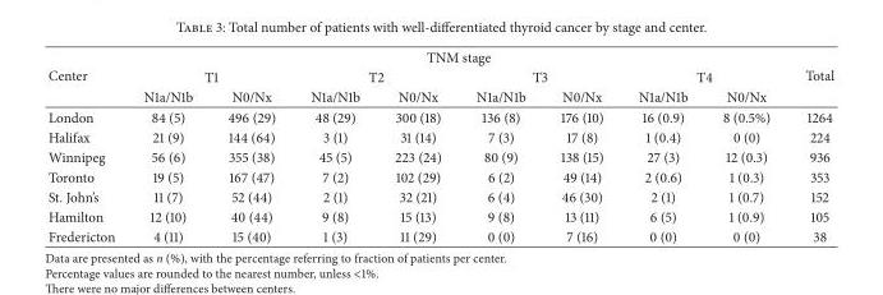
<table><thead><tr><td rowspan="3">Center</td><td colspan="8">TNM stage</td><td rowspan="3">Total</td></tr><tr><td colspan="2">T1</td><td colspan="2">T2</td><td colspan="2">T3</td><td colspan="2">T4</td></tr><tr><td>N1a/N1b</td><td>N0/Nx</td><td>N1a/N1b</td><td>N0/Nx</td><td>N1a/N1b</td><td>N0/Nx</td><td>N1a/N1b</td><td>N0/Nx</td></tr></thead><tbody><tr><td>London</td><td>84 (5)</td><td>496 (29)</td><td>48 (29)</td><td>300 (18)</td><td>136 (8)</td><td>176 (10)</td><td>16 (0.9)</td><td>8 (0.5%)</td><td>1264</td></tr><tr><td>Halifax</td><td>21 (9)</td><td>144 (64)</td><td>3 (1)</td><td>31 (14)</td><td>7 (3)</td><td>17 (8)</td><td>1 (0.4)</td><td>0 (0)</td><td>224</td></tr><tr><td>Winnipeg</td><td>56 (6)</td><td>355 (38)</td><td>45 (5)</td><td>223 (24)</td><td>80 (9)</td><td>138 (15)</td><td>27 (3)</td><td>12 (0.3)</td><td>936</td></tr><tr><td>Toronto</td><td>19 (5)</td><td>167 (47)</td><td>7 (2)</td><td>102 (29)</td><td>6 (2)</td><td>49 (14)</td><td>2 (0.6)</td><td>1 (0.3)</td><td>353</td></tr><tr><td>St. John’s</td><td>11 (7)</td><td>52 (44)</td><td>2 (1)</td><td>32 (21)</td><td>6 (4)</td><td>46 (30)</td><td>2 (1)</td><td>1 (0.7)</td><td>152</td></tr><tr><td>Hamilton</td><td>12 (10)</td><td>40 (44)</td><td>9 (8)</td><td>15 (13)</td><td>9 (8)</td><td>13 (11)</td><td>6 (5)</td><td>1 (0.9)</td><td>105</td></tr><tr><td>Fredericton</td><td>4 (11)</td><td>15 (40)</td><td>1 (3)</td><td>11 (29)</td><td>0 (0)</td><td>7 (16)</td><td>0 (0)</td><td>0 (0)</td><td>38</td></tr></tbody></table>